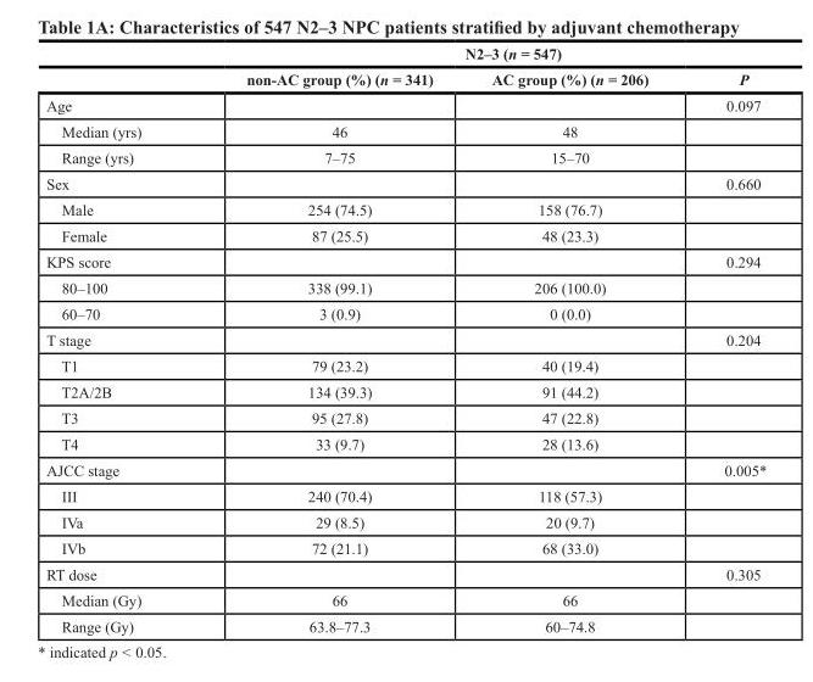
<table><thead><tr><td rowspan="2"></td><td colspan="3">N2–3 (n = 547)</td></tr><tr><td>non-AC group (%) (n = 341)</td><td>AC group (%) (n = 206)</td><td>P</td></tr></thead><tbody><tr><td>Age</td><td></td><td></td><td>0.097</td></tr><tr><td>Median (yrs)</td><td>46</td><td>48</td><td></td></tr><tr><td>Range (yrs)</td><td>7–75</td><td>15–70</td><td></td></tr><tr><td>Sex</td><td></td><td></td><td>0.660</td></tr><tr><td>Male</td><td>254 (74.5)</td><td>158 (76.7)</td><td></td></tr><tr><td>Female</td><td>87 (25.5)</td><td>48 (23.3)</td><td></td></tr><tr><td>KPS score</td><td></td><td></td><td>0.294</td></tr><tr><td>80–100</td><td>338 (99.1)</td><td>206 (100.0)</td><td></td></tr><tr><td>60–70</td><td>3 (0.9)</td><td>0 (0.0)</td><td></td></tr><tr><td>T stage</td><td></td><td></td><td>0.204</td></tr><tr><td>T1</td><td>79 (23.2)</td><td>40 (19.4)</td><td></td></tr><tr><td>T2A/2B</td><td>134 (39.3)</td><td>91 (44.2)</td><td></td></tr><tr><td>T3</td><td>95 (27.8)</td><td>47 (22.8)</td><td></td></tr><tr><td>T4</td><td>33 (9.7)</td><td>28 (13.6)</td><td></td></tr><tr><td>AJCC stage</td><td></td><td></td><td>0.005*</td></tr><tr><td>III</td><td>240 (70.4)</td><td>118 (57.3)</td><td></td></tr><tr><td>IVa</td><td>29 (8.5)</td><td>20 (9.7)</td><td></td></tr><tr><td>IVb</td><td>72 (21.1)</td><td>68 (33.0)</td><td></td></tr><tr><td>RT dose</td><td></td><td></td><td>0.305</td></tr><tr><td>Median (Gy)</td><td>66</td><td>66</td><td></td></tr><tr><td>Range (Gy)</td><td>63.8–77.3</td><td>60–74.8</td><td></td></tr></tbody></table>